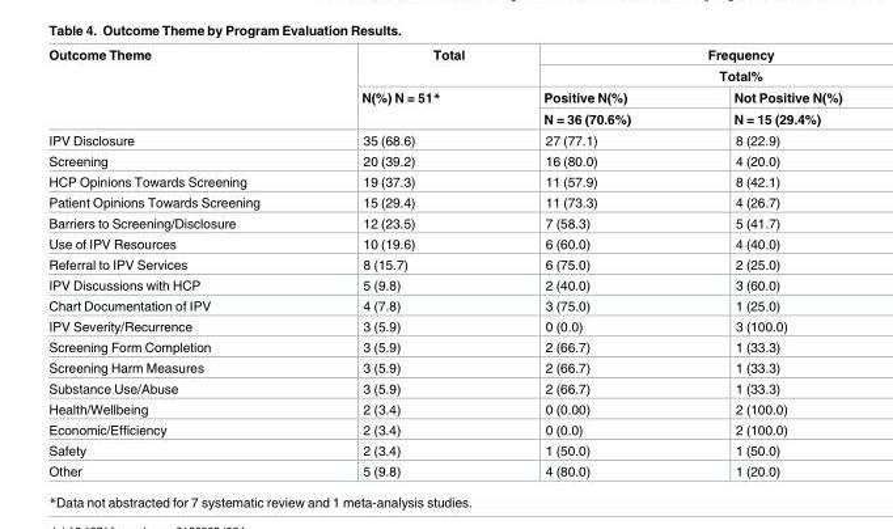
<table><thead><tr><td rowspan="4">Outcome Theme</td><td rowspan="4">Total N(%) N = 51*</td><td rowspan="2" colspan="2">Frequency Total%</td></tr><tr></tr><tr><td rowspan="2">Positive N(%) N = 36 (70.6%)</td><td rowspan="2">Not Positive N(%) N = 15 (29.4%)</td></tr><tr></tr></thead><tbody><tr><td>IPV Disclosure</td><td>35 (68.6)</td><td>27 (77.1)</td><td>8 (22.9)</td></tr><tr><td>Screening</td><td>20 (39.2)</td><td>16 (80.0)</td><td>4 (20.0)</td></tr><tr><td>HCP Opinions Towards Screening</td><td>19 (37.3)</td><td>11 (57.9)</td><td>8 (42.1)</td></tr><tr><td>Patient Opinions Towards Screening</td><td>15 (29.4)</td><td>11 (73.3)</td><td>4 (26.7)</td></tr><tr><td>Barriers to Screening/Disclosure</td><td>12 (23.5)</td><td>7 (58.3)</td><td>5 (41.7)</td></tr><tr><td>Use of IPV Resources</td><td>10 (19.6)</td><td>6 (60.0)</td><td>4 (40.0)</td></tr><tr><td>Referral to IPV Services</td><td>8 (15.7)</td><td>6 (75.0)</td><td>2 (25.0)</td></tr><tr><td>IPV Discussions with HCP</td><td>5 (9.8)</td><td>2 (40.0)</td><td>3 (60.0)</td></tr><tr><td>Chart Documentation of IPV</td><td>4 (7.8)</td><td>3 (75.0)</td><td>1 (25.0)</td></tr><tr><td>IPV Severity/Recurrence</td><td>3 (5.9)</td><td>0 (0.0)</td><td>3 (100.0)</td></tr><tr><td>Screening Form Completion</td><td>3 (5.9)</td><td>2 (66.7)</td><td>1 (33.3)</td></tr><tr><td>Screening Harm Measures</td><td>3 (5.9)</td><td>2 (66.7)</td><td>1 (33.3)</td></tr><tr><td>Substance Use/Abuse</td><td>3 (5.9)</td><td>2 (66.7)</td><td>1 (33.3)</td></tr><tr><td>Health/Wellbeing</td><td>2 (3.4)</td><td>0 (0.00)</td><td>2 (100.0)</td></tr><tr><td>Economic/Efficiency</td><td>2 (3.4)</td><td>0 (0.0)</td><td>2 (100.0)</td></tr><tr><td>Safety</td><td>2 (3.4)</td><td>1 (50.0)</td><td>1 (50.0)</td></tr><tr><td>Other</td><td>5 (9.8)</td><td>4 (80.0)</td><td>1 (20.0)</td></tr></tbody></table>